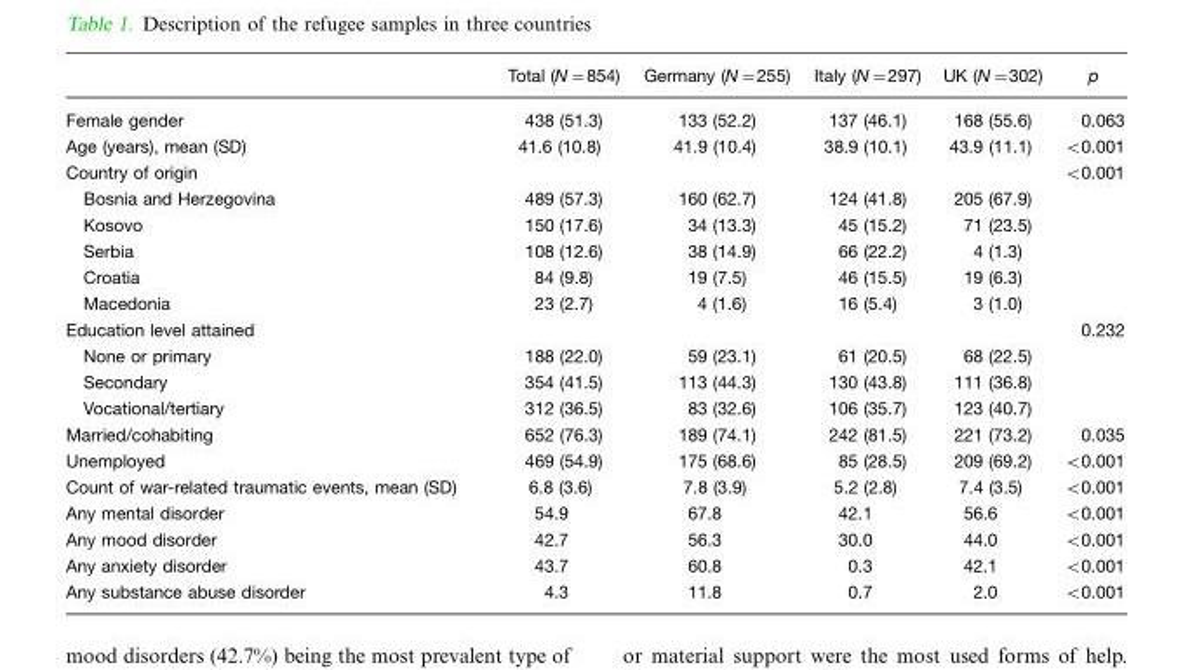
<table><thead><tr><td></td><td>Total (N=854)</td><td>Germany (N=255)</td><td>Italy (N=297)</td><td>UK (N=302)</td><td>p</td></tr></thead><tbody><tr><td>Female gender</td><td>438 (51.3)</td><td>133 (52.2)</td><td>137 (46.1)</td><td>168 (55.6)</td><td>0.063</td></tr><tr><td>Age (years), mean (SD)</td><td>41.6 (10.8)</td><td>41.9 (10.4)</td><td>38.9 (10.1)</td><td>43.9 (11.1)</td><td>&lt;0.001</td></tr><tr><td>Country of origin</td><td></td><td></td><td></td><td></td><td>&lt;0.001</td></tr><tr><td>Bosnia and Herzegovina</td><td>489 (57.3)</td><td>160 (62.7)</td><td>124 (41.8)</td><td>205 (67.9)</td><td></td></tr><tr><td>Kosovo</td><td>150 (17.6)</td><td>34 (13.3)</td><td>45 (15.2)</td><td>71 (23.5)</td><td></td></tr><tr><td>Serbia</td><td>108 (12.6)</td><td>38 (14.9)</td><td>66 (22.2)</td><td>4 (1.3)</td><td></td></tr><tr><td>Croatia</td><td>84 (9.8)</td><td>19 (7.5)</td><td>46 (15.5)</td><td>19 (6.3)</td><td></td></tr><tr><td>Macedonia</td><td>23 (2.7)</td><td>4 (1.6)</td><td>16 (5.4)</td><td>3 (1.0)</td><td></td></tr><tr><td>Education level attained</td><td></td><td></td><td></td><td></td><td>0.232</td></tr><tr><td>None or primary</td><td>188 (22.0)</td><td>59 (23.1)</td><td>61 (20.5)</td><td>68 (22.5)</td><td></td></tr><tr><td>Secondary</td><td>354 (41.5)</td><td>113 (44.3)</td><td>130 (43.8)</td><td>111 (36.8)</td><td></td></tr><tr><td>Vocational/tertiary</td><td>312 (36.5)</td><td>83 (32.6)</td><td>106 (35.7)</td><td>123 (40.7)</td><td></td></tr><tr><td>Married/cohabiting</td><td>652 (76.3)</td><td>189 (74.1)</td><td>242 (81.5)</td><td>221 (73.2)</td><td>0.035</td></tr><tr><td>Unemployed</td><td>469 (54.9)</td><td>175 (68.6)</td><td>85 (28.5)</td><td>209 (69.2)</td><td>&lt;0.001</td></tr><tr><td>Count of war-related traumatic events, mean (SD)</td><td>6.8 (3.6)</td><td>7.8 (3.9)</td><td>5.2 (2.8)</td><td>7.4 (3.5)</td><td>&lt;0.001</td></tr><tr><td>Any mental disorder</td><td>54.9</td><td>67.8</td><td>42.1</td><td>56.6</td><td>&lt;0.001</td></tr><tr><td>Any mood disorder</td><td>42.7</td><td>56.3</td><td>30.0</td><td>44.0</td><td>&lt;0.001</td></tr><tr><td>Any anxiety disorder</td><td>43.7</td><td>60.8</td><td>0.3</td><td>42.1</td><td>&lt;0.001</td></tr><tr><td>Any substance abuse disorder</td><td>4.3</td><td>11.8</td><td>0.7</td><td>2.0</td><td>&lt;0.001</td></tr></tbody></table>